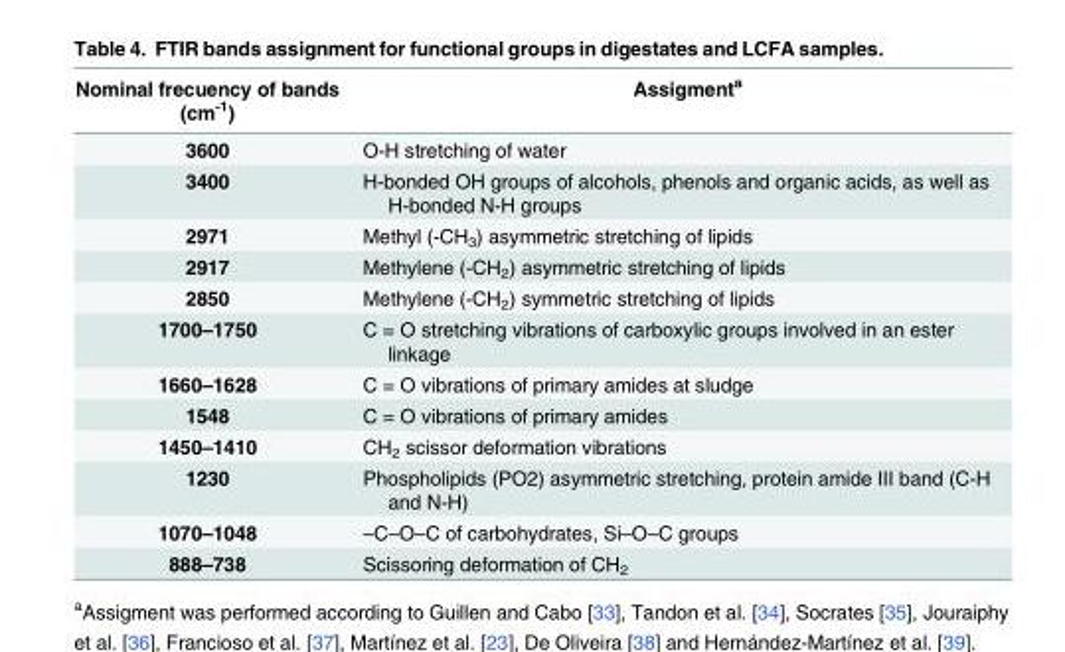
<table><thead><tr><td>Nominal frecuency of bands (cm<sup>-1</sup>)</td><td>Assigment<sup>a</sup></td></tr></thead><tbody><tr><td>3600</td><td>O-H stretching of water</td></tr><tr><td>3400</td><td>H-bonded OH groups of alcohols, phenols and organic acids, as well as H-bonded N-H groups</td></tr><tr><td>2971</td><td>Methyl (-CH<sub>3</sub>) asymmetric stretching of lipids</td></tr><tr><td>2917</td><td>Methylene (-CH<sub>2</sub>) asymmetric stretching of lipids</td></tr><tr><td>2850</td><td>Methylene (-CH<sub>2</sub>) symmetric stretching of lipids</td></tr><tr><td>1700–1750</td><td>C = O stretching vibrations of carboxylic groups involved in an ester linkage</td></tr><tr><td>1660–1628</td><td>C = O vibrations of primary amides at sludge</td></tr><tr><td>1548</td><td>C = O vibrations of primary amides</td></tr><tr><td>1450–1410</td><td>CH<sub>2</sub> scissor deformation vibrations</td></tr><tr><td>1230</td><td>Phospholipids (PO2) asymmetric stretching, protein amide III band (C-H and N-H)</td></tr><tr><td>1070–1048</td><td>–C–O–C of carbohydrates, Si–O–C groups</td></tr><tr><td>888–738</td><td>Scissoring deformation of CH<sub>2</sub></td></tr></tbody></table>